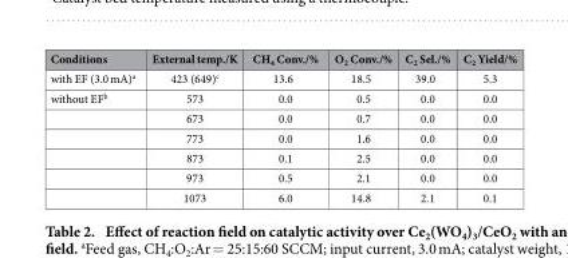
<table><thead><tr><td>Conditions</td><td>External temp./K</td><td>CH<sub>4</sub> Conv./%</td><td>O<sub>2</sub> Conv./%</td><td>C<sub>2</sub> Sel./%</td><td>C<sub>2</sub> Yield/%</td></tr></thead><tbody><tr><td>with EF (3.0 mA)<sup>a</sup></td><td>423 (649)<sup>c</sup></td><td>13.6</td><td>18.5</td><td>39.0</td><td>5.3</td></tr><tr><td rowspan="6">without EF<sup>b</sup></td><td>573</td><td>0.0</td><td>0.5</td><td>0.0</td><td>0.0</td></tr><tr><td>673</td><td>0.0</td><td>0.7</td><td>0.0</td><td>0.0</td></tr><tr><td>773</td><td>0.0</td><td>1.6</td><td>0.0</td><td>0.0</td></tr><tr><td>873</td><td>0.1</td><td>2.5</td><td>0.0</td><td>0.0</td></tr><tr><td>973</td><td>0.5</td><td>2.1</td><td>0.0</td><td>0.0</td></tr><tr><td>1073</td><td>6.0</td><td>14.8</td><td>2.1</td><td>0.1</td></tr></tbody></table>